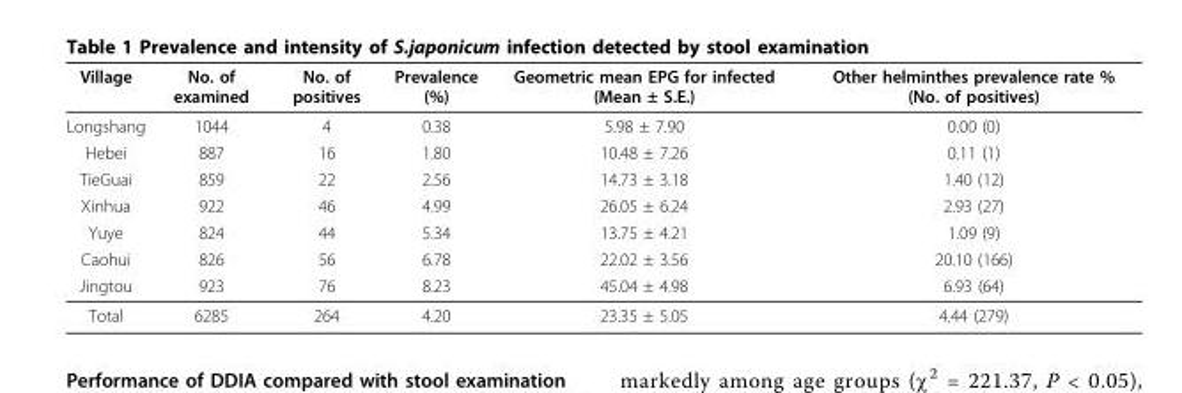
<table><thead><tr><td>Village</td><td>No. of examined</td><td>No. of positives</td><td>Prevalence (%)</td><td>Geometric mean EPG for infected (Mean ± S.E.)</td><td>Other helminthes prevalence rate % (No. of positives)</td></tr></thead><tbody><tr><td>Longshang</td><td>1044</td><td>4</td><td>0.38</td><td>5.98 ± 7.90</td><td>0.00 (0)</td></tr><tr><td>Hebei</td><td>887</td><td>16</td><td>1.80</td><td>10.48 ± 7.26</td><td>0.11 (1)</td></tr><tr><td>TieGuai</td><td>859</td><td>22</td><td>2.56</td><td>14.73 ± 3.18</td><td>1.40 (12)</td></tr><tr><td>Xinhua</td><td>922</td><td>46</td><td>4.99</td><td>26.05 ± 6.24</td><td>2.93 (27)</td></tr><tr><td>Yuye</td><td>824</td><td>44</td><td>5.34</td><td>13.75 ± 4.21</td><td>1.09 (9)</td></tr><tr><td>Caohui</td><td>826</td><td>56</td><td>6.78</td><td>22.02 ± 3.56</td><td>20.10 (166)</td></tr><tr><td>Jingtou</td><td>923</td><td>76</td><td>8.23</td><td>45.04 ± 4.98</td><td>6.93 (64)</td></tr><tr><td>Total</td><td>6285</td><td>264</td><td>4.20</td><td>23.35 ± 5.05</td><td>4.44 (279)</td></tr></tbody></table>